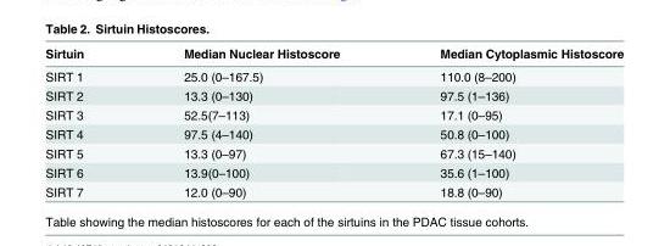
<table><thead><tr><td>Sirtuin</td><td>Median Nuclear Histoscore</td><td>Median Cytoplasmic Histoscore</td></tr></thead><tbody><tr><td>SIRT 1</td><td>25.0 (0–167.5)</td><td>110.0 (8–200)</td></tr><tr><td>SIRT 2</td><td>13.3 (0–130)</td><td>97.5 (1–136)</td></tr><tr><td>SIRT 3</td><td>52.5(7–113)</td><td>17.1 (0–95)</td></tr><tr><td>SIRT 4</td><td>97.5 (4–140)</td><td>50.8 (0–100)</td></tr><tr><td>SIRT 5</td><td>13.3 (0–97)</td><td>67.3 (15–140)</td></tr><tr><td>SIRT 6</td><td>13.9(0–100)</td><td>35.6 (1–100)</td></tr><tr><td>SIRT 7</td><td>12.0 (0–90)</td><td>18.8 (0–90)</td></tr></tbody></table>